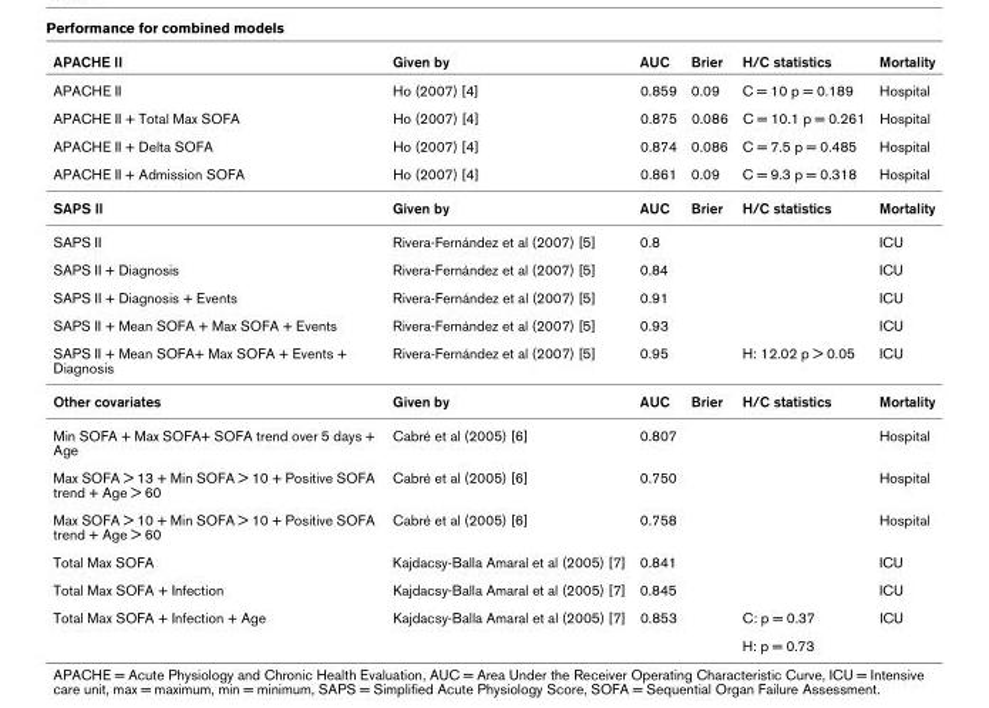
<table><thead><tr><td>APACHE II</td><td>Given by</td><td>AUC</td><td>Brier</td><td>H/C statistics</td><td>Mortality</td></tr></thead><tbody><tr><td>APACHE II</td><td>Ho (2007) [4]</td><td>0.859</td><td>0.09</td><td>C = 10 p = 0.189</td><td>Hospital</td></tr><tr><td>APACHE II + Total Max SOFA</td><td>Ho (2007) [4]</td><td>0.875</td><td>0.086</td><td>C = 10.1 p = 0.261</td><td>Hospital</td></tr><tr><td>APACHE II + Delta SOFA</td><td>Ho (2007) [4]</td><td>0.874</td><td>0.086</td><td>C = 7.5 p = 0.485</td><td>Hospital</td></tr><tr><td>APACHE II + Admission SOFA</td><td>Ho (2007) [4]</td><td>0.861</td><td>0.09</td><td>C = 9.3 p = 0.318</td><td>Hospital</td></tr><tr><td>SAPS II</td><td>Given by</td><td>AUC</td><td>Brier</td><td>H/C statistics</td><td>Mortality</td></tr><tr><td>SAPS II</td><td>Rivera-Fernández et al (2007) [5]</td><td>0.8</td><td></td><td></td><td>ICU</td></tr><tr><td>SAPS II + Diagnosis</td><td>Rivera-Fernández et al (2007) [5]</td><td>0.84</td><td></td><td></td><td>ICU</td></tr><tr><td>SAPS II + Diagnosis + Events</td><td>Rivera-Fernández et al (2007) [5]</td><td>0.91</td><td></td><td></td><td>ICU</td></tr><tr><td>SAPS II + Mean SOFA + Max SOFA + Events</td><td>Rivera-Fernández et al (2007) [5]</td><td>0.93</td><td></td><td></td><td>ICU</td></tr><tr><td>SAPS II + Mean SOFA+ Max SOFA + Events + Diagnosis</td><td>Rivera-Fernández et al (2007) [5]</td><td>0.95</td><td></td><td>H: 12.02 p &gt; 0.05</td><td>ICU</td></tr><tr><td>Other covariates</td><td>Given by</td><td>AUC</td><td>Brier</td><td>H/C statistics</td><td>Mortality</td></tr><tr><td>Min SOFA + Max SOFA+ SOFA trend over 5 days + Age</td><td>Cabré et al (2005) [6]</td><td>0.807</td><td></td><td></td><td>Hospital</td></tr><tr><td>Max SOFA &gt; 13 + Min SOFA &gt; 10 + Positive SOFA trend + Age &gt; 60</td><td>Cabré et al (2005) [6]</td><td>0.750</td><td></td><td></td><td>Hospital</td></tr><tr><td>Max SOFA &gt; 10 + Min SOFA &gt; 10 + Positive SOFA trend + Age &gt; 60</td><td>Cabré et al (2005) [6]</td><td>0.758</td><td></td><td></td><td>Hospital</td></tr><tr><td>Total Max SOFA</td><td>Kajdacsy-Balla Amaral et al (2005) [7]</td><td>0.841</td><td></td><td></td><td>ICU</td></tr><tr><td>Total Max SOFA + Infection</td><td>Kajdacsy-Balla Amaral et al (2005) [7]</td><td>0.845</td><td></td><td></td><td>ICU</td></tr><tr><td rowspan="2">Total Max SOFA + Infection + Age</td><td>Kajdacsy-Balla Amaral et al (2005) [7]</td><td>0.853</td><td></td><td>C: p = 0.37</td><td>ICU</td></tr><tr><td></td><td></td><td></td><td>H: p = 0.73</td><td></td></tr></tbody></table>